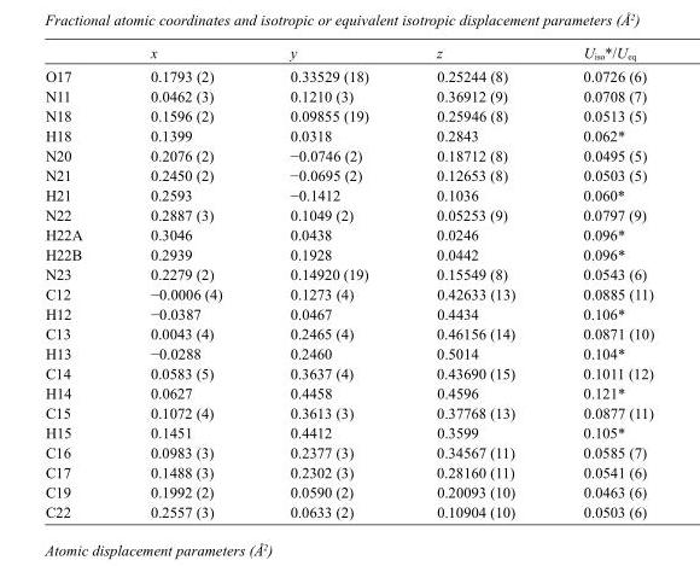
<table><thead><tr><td></td><td>x</td><td>y</td><td>z</td><td>U<sub>iso</sub>*/U<sub>eq</sub></td></tr></thead><tbody><tr><td>O17</td><td>0.1793 (2)</td><td>0.33529 (18)</td><td>0.25244 (8)</td><td>0.0726 (6)</td></tr><tr><td>N11</td><td>0.0462 (3)</td><td>0.1210 (3)</td><td>0.36912 (9)</td><td>0.0708 (7)</td></tr><tr><td>N18</td><td>0.1596 (2)</td><td>0.09855 (19)</td><td>0.25946 (8)</td><td>0.0513 (5)</td></tr><tr><td>H18</td><td>0.1399</td><td>0.0318</td><td>0.2843</td><td>0.062*</td></tr><tr><td>N20</td><td>0.2076 (2)</td><td>−0.0746 (2)</td><td>0.18712 (8)</td><td>0.0495 (5)</td></tr><tr><td>N21</td><td>0.2450 (2)</td><td>−0.0695 (2)</td><td>0.12653 (8)</td><td>0.0503 (5)</td></tr><tr><td>H21</td><td>0.2593</td><td>−0.1412</td><td>0.1036</td><td>0.060*</td></tr><tr><td>N22</td><td>0.2887 (3)</td><td>0.1049 (2)</td><td>0.05253 (9)</td><td>0.0797 (9)</td></tr><tr><td>H22A</td><td>0.3046</td><td>0.0438</td><td>0.0246</td><td>0.096*</td></tr><tr><td>H22B</td><td>0.2939</td><td>0.1928</td><td>0.0442</td><td>0.096*</td></tr><tr><td>N23</td><td>0.2279 (2)</td><td>0.14920 (19)</td><td>0.15549 (8)</td><td>0.0543 (6)</td></tr><tr><td>C12</td><td>−0.0006 (4)</td><td>0.1273 (4)</td><td>0.42633 (13)</td><td>0.0885 (11)</td></tr><tr><td>H12</td><td>−0.0387</td><td>0.0467</td><td>0.4434</td><td>0.106*</td></tr><tr><td>C13</td><td>0.0043 (4)</td><td>0.2465 (4)</td><td>0.46156 (14)</td><td>0.0871 (10)</td></tr><tr><td>H13</td><td>−0.0288</td><td>0.2460</td><td>0.5014</td><td>0.104*</td></tr><tr><td>C14</td><td>0.0583 (5)</td><td>0.3637 (4)</td><td>0.43690 (15)</td><td>0.1011 (12)</td></tr><tr><td>H14</td><td>0.0627</td><td>0.4458</td><td>0.4596</td><td>0.121*</td></tr><tr><td>C15</td><td>0.1072 (4)</td><td>0.3613 (3)</td><td>0.37768 (13)</td><td>0.0877 (11)</td></tr><tr><td>H15</td><td>0.1451</td><td>0.4412</td><td>0.3599</td><td>0.105*</td></tr><tr><td>C16</td><td>0.0983 (3)</td><td>0.2377 (3)</td><td>0.34567 (11)</td><td>0.0585 (7)</td></tr><tr><td>C17</td><td>0.1488 (3)</td><td>0.2302 (3)</td><td>0.28160 (11)</td><td>0.0541 (6)</td></tr><tr><td>C19</td><td>0.1992 (2)</td><td>0.0590 (2)</td><td>0.20093 (10)</td><td>0.0463 (6)</td></tr><tr><td>C22</td><td>0.2557 (3)</td><td>0.0633 (2)</td><td>0.10904 (10)</td><td>0.0503 (6)</td></tr></tbody></table>